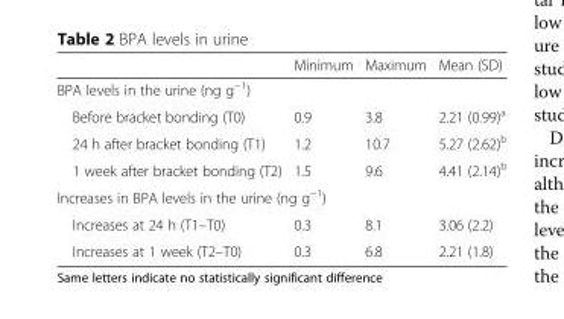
<table><thead><tr><td></td><td>Minimum</td><td>Maximum</td><td>Mean (SD)</td></tr></thead><tbody><tr><td colspan="4">BPA levels in the urine (ng g<sup>−1</sup>)</td></tr><tr><td>Before bracket bonding (T0)</td><td>0.9</td><td>3.8</td><td>2.21 (0.99)<sup>a</sup></td></tr><tr><td>24 h after bracket bonding (T1)</td><td>1.2</td><td>10.7</td><td>5.27 (2.62)<sup>b</sup></td></tr><tr><td>1 week after bracket bonding (T2)</td><td>1.5</td><td>9.6</td><td>4.41 (2.14)<sup>b</sup></td></tr><tr><td colspan="4">Increases in BPA levels in the urine (ng g<sup>−1</sup>)</td></tr><tr><td>Increases at 24 h (T1–T0)</td><td>0.3</td><td>8.1</td><td>3.06 (2.2)</td></tr><tr><td>Increases at 1 week (T2–T0)</td><td>0.3</td><td>6.8</td><td>2.21 (1.8)</td></tr></tbody></table>